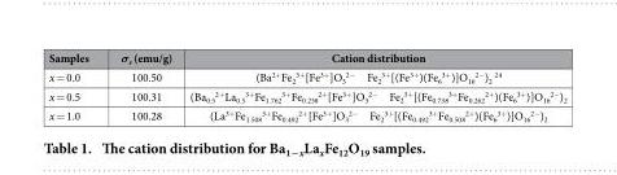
<table><thead><tr><td>Samples</td><td>σ<sub>s</sub> (emu/g)</td><td>Cation distribution</td></tr></thead><tbody><tr><td>x = 0.0</td><td>100.50</td><td>(Ba<sup>2+</sup>Fe<sub>2</sub> <sup>3+</sup>[Fe<sup>3+</sup>]O<sub>3</sub> <sup>2−</sup> Fe<sub>2</sub> <sup>3+</sup>[(Fe<sup>3+</sup>)(Fe<sub>6</sub> <sup>3+</sup>)]O<sub>16</sub> <sup>2−</sup>)<sub>2</sub> 24</td></tr><tr><td>x = 0.5</td><td>100.31</td><td>(Ba<sub>0.5</sub> <sup>2+</sup>La<sub>0.5</sub> <sup>3+</sup>Fe<sub>1.762</sub> <sup>3+</sup>Fe<sub>0.238</sub> <sup>2+</sup>[Fe<sup>3+</sup>]O<sub>3</sub> <sup>2−</sup> Fe<sub>2</sub> <sup>3+</sup>[(Fe<sub>0.738</sub> <sup>3+</sup>Fe<sub>0.262</sub> <sup>2+</sup>)(Fe<sub>6</sub> <sup>3+</sup>)]O<sub>16</sub> <sup>2−</sup>)<sub>2</sub></td></tr><tr><td>x = 1.0</td><td>100.28</td><td>(La<sup>3+</sup>Fe<sub>1.508</sub> <sup>3+</sup>Fe<sub>0.492</sub> <sup>2+</sup>[Fe<sup>3+</sup>]O<sub>3</sub> <sup>2−</sup> Fe<sub>2</sub> <sup>3+</sup>[(Fe<sub>0.492</sub> <sup>3+</sup>Fe<sub>0.508</sub> <sup>2+</sup>)(Fe<sub>6</sub> <sup>3+</sup>)]O<sub>16</sub> <sup>2−</sup>)<sub>2</sub></td></tr></tbody></table>